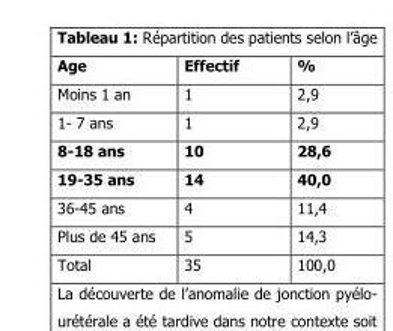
<table><thead><tr><td>Age</td><td>Effectif</td><td>%</td></tr></thead><tbody><tr><td>Moins 1 an</td><td>1</td><td>2,9</td></tr><tr><td>1- 7 ans</td><td>1</td><td>2,9</td></tr><tr><td>8-18 ans</td><td>10</td><td>28,6</td></tr><tr><td>19-35 ans</td><td>14</td><td>40,0</td></tr><tr><td>36-45 ans</td><td>4</td><td>11,4</td></tr><tr><td>Plus de 45 ans</td><td>5</td><td>14,3</td></tr><tr><td>Total</td><td>35</td><td>100,0</td></tr></tbody></table>